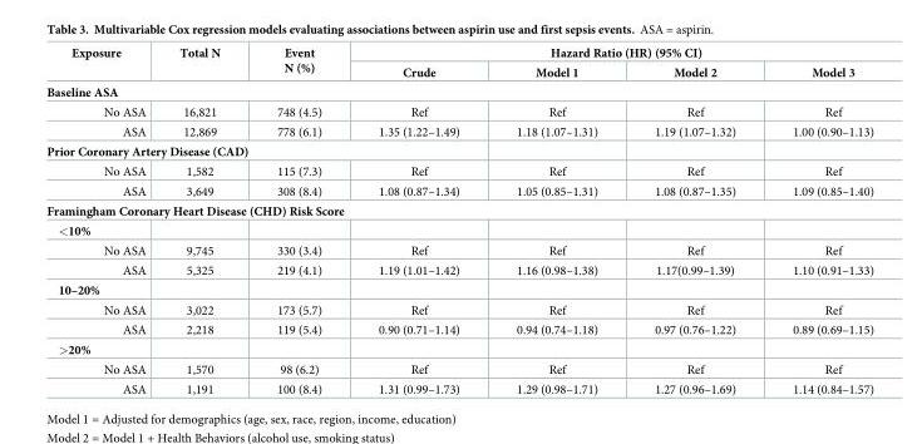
<table><thead><tr><td rowspan="2">Exposure</td><td rowspan="2">Total N</td><td rowspan="2">Event N (%)</td><td colspan="4">Hazard Ratio (HR) (95% CI)</td></tr><tr><td>Crude</td><td>Model 1</td><td>Model 2</td><td>Model 3</td></tr></thead><tbody><tr><td colspan="7">Baseline ASA</td></tr><tr><td>No ASA</td><td>16,821</td><td>748 (4.5)</td><td>Ref</td><td>Ref</td><td>Ref</td><td>Ref</td></tr><tr><td>ASA</td><td>12,869</td><td>778 (6.1)</td><td>1.35 (1.22–1.49)</td><td>1.18 (1.07–1.31)</td><td>1.19 (1.07–1.32)</td><td>1.00 (0.90–1.13)</td></tr><tr><td colspan="7">Prior Coronary Artery Disease (CAD)</td></tr><tr><td>No ASA</td><td>1,582</td><td>115 (7.3)</td><td>Ref</td><td>Ref</td><td>Ref</td><td>Ref</td></tr><tr><td>ASA</td><td>3,649</td><td>308 (8.4)</td><td>1.08 (0.87–1.34)</td><td>1.05 (0.85–1.31)</td><td>1.08 (0.87–1.35)</td><td>1.09 (0.85–1.40)</td></tr><tr><td colspan="7">Framingham Coronary Heart Disease (CHD) Risk Score</td></tr><tr><td colspan="7">&lt;10%</td></tr><tr><td>No ASA</td><td>9,745</td><td>330 (3.4)</td><td>Ref</td><td>Ref</td><td>Ref</td><td>Ref</td></tr><tr><td>ASA</td><td>5,325</td><td>219 (4.1)</td><td>1.19 (1.01–1.42)</td><td>1.16 (0.98–1.38)</td><td>1.17(0.99–1.39)</td><td>1.10 (0.91–1.33)</td></tr><tr><td colspan="7">10–20%</td></tr><tr><td>No ASA</td><td>3,022</td><td>173 (5.7)</td><td>Ref</td><td>Ref</td><td>Ref</td><td>Ref</td></tr><tr><td>ASA</td><td>2,218</td><td>119 (5.4)</td><td>0.90 (0.71–1.14)</td><td>0.94 (0.74–1.18)</td><td>0.97 (0.76–1.22)</td><td>0.89 (0.69–1.15)</td></tr><tr><td colspan="7">&gt;20%</td></tr><tr><td>No ASA</td><td>1,570</td><td>98 (6.2)</td><td>Ref</td><td>Ref</td><td>Ref</td><td>Ref</td></tr><tr><td>ASA</td><td>1,191</td><td>100 (8.4)</td><td>1.31 (0.99–1.73)</td><td>1.29 (0.98–1.71)</td><td>1.27 (0.96–1.69)</td><td>1.14 (0.84–1.57)</td></tr></tbody></table>